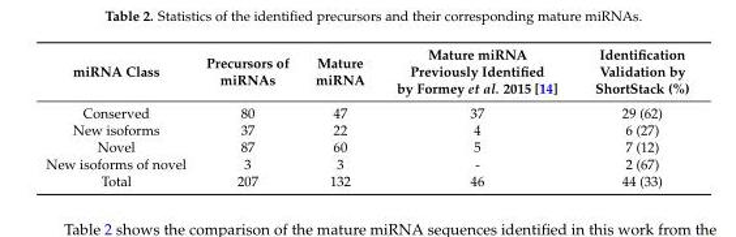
<table><thead><tr><td>miRNA Class</td><td>Precursors of miRNAs</td><td>Mature miRNA</td><td>Mature miRNA Previously Identified by Formey et al. 2015 [14]</td><td>Identification Validation by ShortStack (%)</td></tr></thead><tbody><tr><td>Conserved</td><td>80</td><td>47</td><td>37</td><td>29 (62)</td></tr><tr><td>New isoforms</td><td>37</td><td>22</td><td>4</td><td>6 (27)</td></tr><tr><td>Novel</td><td>87</td><td>60</td><td>5</td><td>7 (12)</td></tr><tr><td>New isoforms of novel</td><td>3</td><td>3</td><td>-</td><td>2 (67)</td></tr><tr><td>Total</td><td>207</td><td>132</td><td>46</td><td>44 (33)</td></tr></tbody></table>